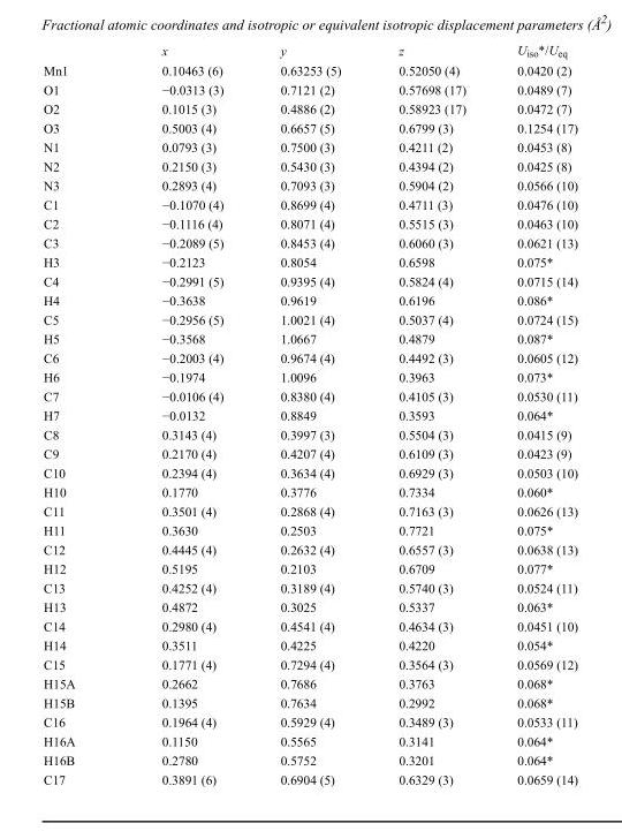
<table><thead><tr><td></td><td>x</td><td>y</td><td>z</td><td>U<sub>iso</sub>*/U<sub>eq</sub></td></tr></thead><tbody><tr><td>Mn1</td><td>0.10463 (6)</td><td>0.63253 (5)</td><td>0.52050 (4)</td><td>0.0420 (2)</td></tr><tr><td>O1</td><td>−0.0313 (3)</td><td>0.7121 (2)</td><td>0.57698 (17)</td><td>0.0489 (7)</td></tr><tr><td>O2</td><td>0.1015 (3)</td><td>0.4886 (2)</td><td>0.58923 (17)</td><td>0.0472 (7)</td></tr><tr><td>O3</td><td>0.5003 (4)</td><td>0.6657 (5)</td><td>0.6799 (3)</td><td>0.1254 (17)</td></tr><tr><td>N1</td><td>0.0793 (3)</td><td>0.7500 (3)</td><td>0.4211 (2)</td><td>0.0453 (8)</td></tr><tr><td>N2</td><td>0.2150 (3)</td><td>0.5430 (3)</td><td>0.4394 (2)</td><td>0.0425 (8)</td></tr><tr><td>N3</td><td>0.2893 (4)</td><td>0.7093 (3)</td><td>0.5904 (2)</td><td>0.0566 (10)</td></tr><tr><td>C1</td><td>−0.1070 (4)</td><td>0.8699 (4)</td><td>0.4711 (3)</td><td>0.0476 (10)</td></tr><tr><td>C2</td><td>−0.1116 (4)</td><td>0.8071 (4)</td><td>0.5515 (3)</td><td>0.0463 (10)</td></tr><tr><td>C3</td><td>−0.2089 (5)</td><td>0.8453 (4)</td><td>0.6060 (3)</td><td>0.0621 (13)</td></tr><tr><td>H3</td><td>−0.2123</td><td>0.8054</td><td>0.6598</td><td>0.075*</td></tr><tr><td>C4</td><td>−0.2991 (5)</td><td>0.9395 (4)</td><td>0.5824 (4)</td><td>0.0715 (14)</td></tr><tr><td>H4</td><td>−0.3638</td><td>0.9619</td><td>0.6196</td><td>0.086*</td></tr><tr><td>C5</td><td>−0.2956 (5)</td><td>1.0021 (4)</td><td>0.5037 (4)</td><td>0.0724 (15)</td></tr><tr><td>H5</td><td>−0.3568</td><td>1.0667</td><td>0.4879</td><td>0.087*</td></tr><tr><td>C6</td><td>−0.2003 (4)</td><td>0.9674 (4)</td><td>0.4492 (3)</td><td>0.0605 (12)</td></tr><tr><td>H6</td><td>−0.1974</td><td>1.0096</td><td>0.3963</td><td>0.073*</td></tr><tr><td>C7</td><td>−0.0106 (4)</td><td>0.8380 (4)</td><td>0.4105 (3)</td><td>0.0530 (11)</td></tr><tr><td>H7</td><td>−0.0132</td><td>0.8849</td><td>0.3593</td><td>0.064*</td></tr><tr><td>C8</td><td>0.3143 (4)</td><td>0.3997 (3)</td><td>0.5504 (3)</td><td>0.0415 (9)</td></tr><tr><td>C9</td><td>0.2170 (4)</td><td>0.4207 (4)</td><td>0.6109 (3)</td><td>0.0423 (9)</td></tr><tr><td>C10</td><td>0.2394 (4)</td><td>0.3634 (4)</td><td>0.6929 (3)</td><td>0.0503 (10)</td></tr><tr><td>H10</td><td>0.1770</td><td>0.3776</td><td>0.7334</td><td>0.060*</td></tr><tr><td>C11</td><td>0.3501 (4)</td><td>0.2868 (4)</td><td>0.7163 (3)</td><td>0.0626 (13)</td></tr><tr><td>H11</td><td>0.3630</td><td>0.2503</td><td>0.7721</td><td>0.075*</td></tr><tr><td>C12</td><td>0.4445 (4)</td><td>0.2632 (4)</td><td>0.6557 (3)</td><td>0.0638 (13)</td></tr><tr><td>H12</td><td>0.5195</td><td>0.2103</td><td>0.6709</td><td>0.077*</td></tr><tr><td>C13</td><td>0.4252 (4)</td><td>0.3189 (4)</td><td>0.5740 (3)</td><td>0.0524 (11)</td></tr><tr><td>H13</td><td>0.4872</td><td>0.3025</td><td>0.5337</td><td>0.063*</td></tr><tr><td>C14</td><td>0.2980 (4)</td><td>0.4541 (4)</td><td>0.4634 (3)</td><td>0.0451 (10)</td></tr><tr><td>H14</td><td>0.3511</td><td>0.4225</td><td>0.4220</td><td>0.054*</td></tr><tr><td>C15</td><td>0.1771 (4)</td><td>0.7294 (4)</td><td>0.3564 (3)</td><td>0.0569 (12)</td></tr><tr><td>H15A</td><td>0.2662</td><td>0.7686</td><td>0.3763</td><td>0.068*</td></tr><tr><td>H15B</td><td>0.1395</td><td>0.7634</td><td>0.2992</td><td>0.068*</td></tr><tr><td>C16</td><td>0.1964 (4)</td><td>0.5929 (4)</td><td>0.3489 (3)</td><td>0.0533 (11)</td></tr><tr><td>H16A</td><td>0.1150</td><td>0.5565</td><td>0.3141</td><td>0.064*</td></tr><tr><td>H16B</td><td>0.2780</td><td>0.5752</td><td>0.3201</td><td>0.064*</td></tr><tr><td>C17</td><td>0.3891 (6)</td><td>0.6904 (5)</td><td>0.6329 (3)</td><td>0.0659 (14)</td></tr></tbody></table>